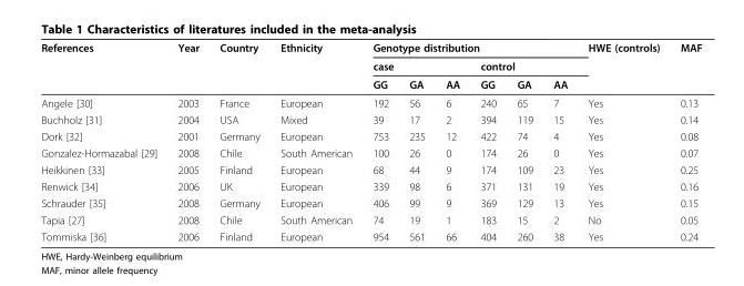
<table><thead><tr><td rowspan="3">References</td><td rowspan="3">Year</td><td rowspan="3">Country</td><td rowspan="3">Ethnicity</td><td colspan="6">Genotype distribution</td><td rowspan="3">HWE (controls)</td><td rowspan="3">MAF</td></tr><tr><td colspan="3">case</td><td colspan="3">control</td></tr><tr><td>GG</td><td>GA</td><td>AA</td><td>GG</td><td>GA</td><td>AA</td></tr></thead><tbody><tr><td>Angele [30]</td><td>2003</td><td>France</td><td>European</td><td>192</td><td>56</td><td>6</td><td>240</td><td>65</td><td>7</td><td>Yes</td><td>0.13</td></tr><tr><td>Buchholz [31]</td><td>2004</td><td>USA</td><td>Mixed</td><td>39</td><td>17</td><td>2</td><td>394</td><td>119</td><td>15</td><td>Yes</td><td>0.14</td></tr><tr><td>Dork [32]</td><td>2001</td><td>Germany</td><td>European</td><td>753</td><td>235</td><td>12</td><td>422</td><td>74</td><td>4</td><td>Yes</td><td>0.08</td></tr><tr><td>Gonzalez-Hormazabal [29]</td><td>2008</td><td>Chile</td><td>South American</td><td>100</td><td>26</td><td>0</td><td>174</td><td>26</td><td>0</td><td>Yes</td><td>0.07</td></tr><tr><td>Heikkinen [33]</td><td>2005</td><td>Finland</td><td>European</td><td>68</td><td>44</td><td>9</td><td>174</td><td>109</td><td>23</td><td>Yes</td><td>0.25</td></tr><tr><td>Renwick [34]</td><td>2006</td><td>UK</td><td>European</td><td>339</td><td>98</td><td>6</td><td>371</td><td>131</td><td>19</td><td>Yes</td><td>0.16</td></tr><tr><td>Schrauder [35]</td><td>2008</td><td>Germany</td><td>European</td><td>406</td><td>99</td><td>9</td><td>369</td><td>129</td><td>13</td><td>Yes</td><td>0.15</td></tr><tr><td>Tapia [27]</td><td>2008</td><td>Chile</td><td>South American</td><td>74</td><td>19</td><td>1</td><td>183</td><td>15</td><td>2</td><td>No</td><td>0.05</td></tr><tr><td>Tommiska [36]</td><td>2006</td><td>Finland</td><td>European</td><td>954</td><td>561</td><td>66</td><td>404</td><td>260</td><td>38</td><td>Yes</td><td>0.24</td></tr></tbody></table>